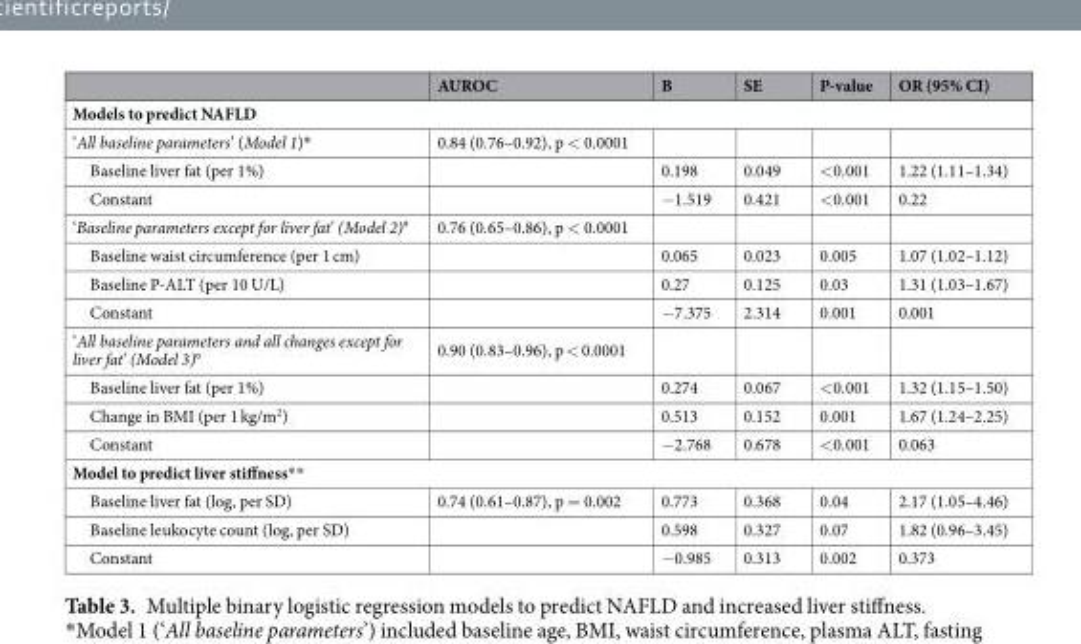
<table><thead><tr><td></td><td>AUROC</td><td>B</td><td>SE</td><td>P-value</td><td>OR (95% CI)</td></tr></thead><tbody><tr><td colspan="6">Models to predict NAFLD</td></tr><tr><td>‘All baseline parameters’ (Model 1)*</td><td>0.84 (0.76–0.92), p &lt; 0.0001</td><td></td><td></td><td></td><td></td></tr><tr><td>Baseline liver fat (per 1%)</td><td></td><td>0.198</td><td>0.049</td><td>&lt;0.001</td><td>1.22 (1.11–1.34)</td></tr><tr><td>Constant</td><td></td><td>−1.519</td><td>0.421</td><td>&lt;0.001</td><td>0.22</td></tr><tr><td>‘Baseline parameters except for liver fat’ (Model 2)<sup>#</sup></td><td>0.76 (0.65–0.86), p &lt; 0.0001</td><td></td><td></td><td></td><td></td></tr><tr><td>Baseline waist circumference (per 1 cm)</td><td></td><td>0.065</td><td>0.023</td><td>0.005</td><td>1.07 (1.02–1.12)</td></tr><tr><td>Baseline P-ALT (per 10 U/L)</td><td></td><td>0.27</td><td>0.125</td><td>0.03</td><td>1.31 (1.03–1.67)</td></tr><tr><td>Constant</td><td></td><td>−7.375</td><td>2.314</td><td>0.001</td><td>0.001</td></tr><tr><td>‘All baseline parameters and all changes except for liver fat’ (Model 3)°</td><td>0.90 (0.83–0.96), p &lt; 0.0001</td><td></td><td></td><td></td><td></td></tr><tr><td>Baseline liver fat (per 1%)</td><td></td><td>0.274</td><td>0.067</td><td>&lt;0.001</td><td>1.32 (1.15–1.50)</td></tr><tr><td>Change in BMI (per 1 kg/m<sup>2</sup>)</td><td></td><td>0.513</td><td>0.152</td><td>0.001</td><td>1.67 (1.24–2.25)</td></tr><tr><td>Constant</td><td></td><td>−2.768</td><td>0.678</td><td>&lt;0.001</td><td>0.063</td></tr><tr><td colspan="6">Model to predict liver stiffness**</td></tr><tr><td>Baseline liver fat (log, per SD)</td><td>0.74 (0.61–0.87), p = 0.002</td><td>0.773</td><td>0.368</td><td>0.04</td><td>2.17 (1.05–4.46)</td></tr><tr><td>Baseline leukocyte count (log, per SD)</td><td></td><td>0.598</td><td>0.327</td><td>0.07</td><td>1.82 (0.96–3.45)</td></tr><tr><td>Constant</td><td></td><td>−0.985</td><td>0.313</td><td>0.002</td><td>0.373</td></tr></tbody></table>